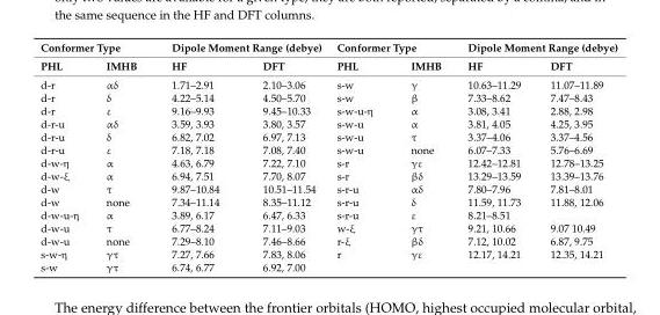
<table><thead><tr><td colspan="2">Conformer Type</td><td colspan="2">Dipole Moment Range (debye)</td><td colspan="2">Conformer Type</td><td colspan="2">Dipole Moment Range (debye)</td></tr><tr><td>PHL</td><td>IMHB</td><td>HF</td><td>DFT</td><td>PHL</td><td>IMHB</td><td>HF</td><td>DFT</td></tr></thead><tbody><tr><td>d-r</td><td>αδ</td><td>1.71–2.91</td><td>2.10–3.06</td><td>s-w</td><td>γ</td><td>10.63–11.29</td><td>11.07–11.89</td></tr><tr><td>d-r</td><td>δ</td><td>4.22–5.14</td><td>4.50–5.70</td><td>s-w</td><td>β</td><td>7.33–8.62</td><td>7.47–8.43</td></tr><tr><td>d-r</td><td>ε</td><td>9.16–9.93</td><td>9.45–10.33</td><td>s-w-u-η</td><td>α</td><td>3.08, 3.41</td><td>2.88, 2.98</td></tr><tr><td>d-r-u</td><td>αδ</td><td>3.59, 3.93</td><td>3.80, 3.57</td><td>s-w-u</td><td>α</td><td>3.81, 4.05</td><td>4.25, 3.95</td></tr><tr><td>d-r-u</td><td>δ</td><td>6.82, 7.02</td><td>6.97, 7.13</td><td>s-w-u</td><td>τ</td><td>3.37–4.06</td><td>3.37–4.56</td></tr><tr><td>d-r-u</td><td>ε</td><td>7.18, 7.18</td><td>7.08, 7.40</td><td>s-w-u</td><td>none</td><td>6.07–7.33</td><td>5.76–6.69</td></tr><tr><td>d-w-η</td><td>α</td><td>4.63, 6.79</td><td>7.22, 7.10</td><td>s-r</td><td>γε</td><td>12.42–12.81</td><td>12.78–13.25</td></tr><tr><td>d-w-ξ</td><td>α</td><td>6.94, 7.51</td><td>7.70, 8.07</td><td>s-r</td><td>βδ</td><td>13.29–13.59</td><td>13.39–13.76</td></tr><tr><td>d-w</td><td>τ</td><td>9.87–10.84</td><td>10.51–11.54</td><td>s-r-u</td><td>αδ</td><td>7.80–7.96</td><td>7.81–8.01</td></tr><tr><td>d-w</td><td>none</td><td>7.34–11.14</td><td>8.35–11.12</td><td>s-r-u</td><td>δ</td><td>11.59, 11.73</td><td>11.88, 12.06</td></tr><tr><td>d-w-u-η</td><td>α</td><td>3.89, 6.17</td><td>6.47, 6.33</td><td>s-r-u</td><td>ε</td><td>8.21–8.51</td><td></td></tr><tr><td>d-w-u</td><td>τ</td><td>6.77–8.24</td><td>7.11–9.03</td><td>w-ξ</td><td>γτ</td><td>9.21, 10.66</td><td>9.07 10.49</td></tr><tr><td>d-w-u</td><td>none</td><td>7.29–8.10</td><td>7.46–8.66</td><td>r-ξ</td><td>βδ</td><td>7.12, 10.02</td><td>6.87, 9.75</td></tr><tr><td>s-w-η</td><td>γτ</td><td>7.27, 7.66</td><td>7.83, 8.06</td><td>r</td><td>γε</td><td>12.17, 14.21</td><td>12.35, 14.21</td></tr><tr><td>s-w</td><td>γτ</td><td>6.74, 6.77</td><td>6.92, 7.00</td><td></td><td></td><td></td><td></td></tr></tbody></table>